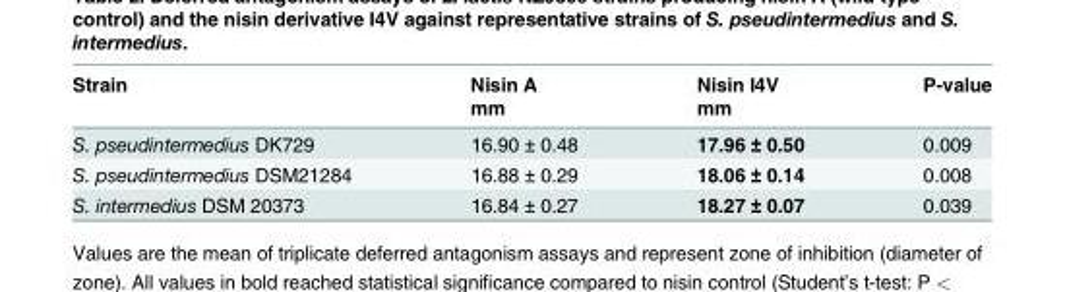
<table><thead><tr><td rowspan="2">Strain</td><td rowspan="2">Nisin A mm</td><td rowspan="2">Nisin I4V mm</td><td rowspan="2">P-value</td></tr><tr></tr></thead><tbody><tr><td>S. pseudintermedius DK729</td><td>16.90 ± 0.48</td><td>17.96 ± 0.50</td><td>0.009</td></tr><tr><td>S. pseudintermedius DSM21284</td><td>16.88 ± 0.29</td><td>18.06 ± 0.14</td><td>0.008</td></tr><tr><td>S. intermedius DSM 20373</td><td>16.84 ± 0.27</td><td>18.27 ± 0.07</td><td>0.039</td></tr></tbody></table>